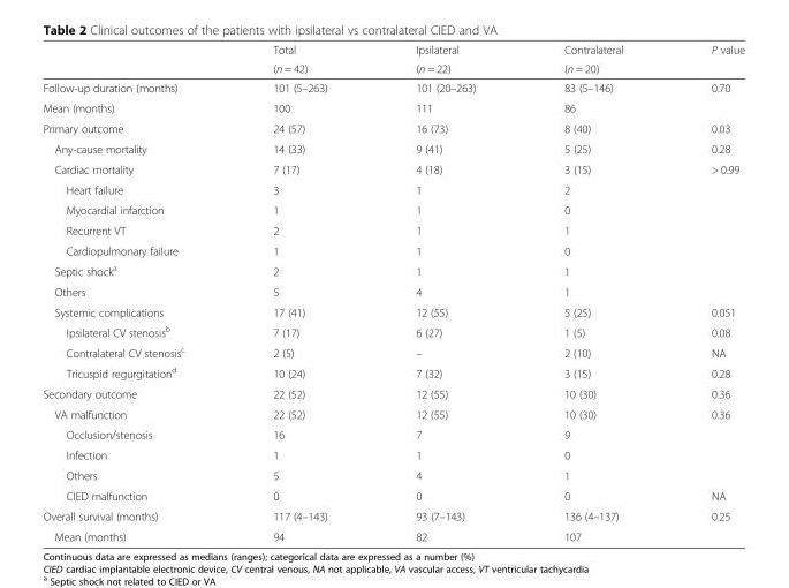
<table><thead><tr><td rowspan="2"></td><td rowspan="2">Total (n = 42)</td><td rowspan="2">Ipsilateral (n = 22)</td><td rowspan="2">Contralateral (n = 20)</td><td rowspan="2">P value</td></tr><tr></tr></thead><tbody><tr><td>Follow-up duration (months)</td><td>101 (5–263)</td><td>101 (20–263)</td><td>83 (5–146)</td><td>0.70</td></tr><tr><td>Mean (months)</td><td>100</td><td>111</td><td>86</td><td></td></tr><tr><td>Primary outcome</td><td>24 (57)</td><td>16 (73)</td><td>8 (40)</td><td>0.03</td></tr><tr><td>Any-cause mortality</td><td>14 (33)</td><td>9 (41)</td><td>5 (25)</td><td>0.28</td></tr><tr><td>Cardiac mortality</td><td>7 (17)</td><td>4 (18)</td><td>3 (15)</td><td>&gt; 0.99</td></tr><tr><td>Heart failure</td><td>3</td><td>1</td><td>2</td><td></td></tr><tr><td>Myocardial infarction</td><td>1</td><td>1</td><td>0</td><td></td></tr><tr><td>Recurrent VT</td><td>2</td><td>1</td><td>1</td><td></td></tr><tr><td>Cardiopulmonary failure</td><td>1</td><td>1</td><td>0</td><td></td></tr><tr><td>Septic shock<sup>a</sup></td><td>2</td><td>1</td><td>1</td><td></td></tr><tr><td>Others</td><td>5</td><td>4</td><td>1</td><td></td></tr><tr><td>Systemic complications</td><td>17 (41)</td><td>12 (55)</td><td>5 (25)</td><td>0.051</td></tr><tr><td>Ipsilateral CV stenosis<sup>b</sup></td><td>7 (17)</td><td>6 (27)</td><td>1 (5)</td><td>0.08</td></tr><tr><td>Contralateral CV stenosis<sup>c</sup></td><td>2 (5)</td><td>–</td><td>2 (10)</td><td>NA</td></tr><tr><td>Tricuspid regurgitation<sup>d</sup></td><td>10 (24)</td><td>7 (32)</td><td>3 (15)</td><td>0.28</td></tr><tr><td>Secondary outcome</td><td>22 (52)</td><td>12 (55)</td><td>10 (30)</td><td>0.36</td></tr><tr><td>VA malfunction</td><td>22 (52)</td><td>12 (55)</td><td>10 (30)</td><td>0.36</td></tr><tr><td>Occlusion/stenosis</td><td>16</td><td>7</td><td>9</td><td></td></tr><tr><td>Infection</td><td>1</td><td>1</td><td>0</td><td></td></tr><tr><td>Others</td><td>5</td><td>4</td><td>1</td><td></td></tr><tr><td>CIED malfunction</td><td>0</td><td>0</td><td>0</td><td>NA</td></tr><tr><td>Overall survival (months)</td><td>117 (4–143)</td><td>93 (7–143)</td><td>136 (4–137)</td><td>0.25</td></tr><tr><td>Mean (months)</td><td>94</td><td>82</td><td>107</td><td></td></tr></tbody></table>